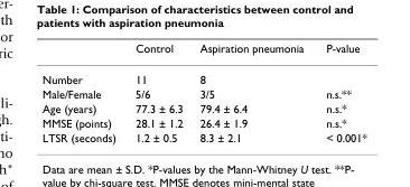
<table><thead><tr><td></td><td>Control</td><td>Aspiration pneumonia</td><td>P-value</td></tr></thead><tbody><tr><td>Number</td><td>11</td><td>8</td><td></td></tr><tr><td>Male/Female</td><td>5/6</td><td>3/5</td><td>n.s.**</td></tr><tr><td>Age (years)</td><td>77.3 ± 6.3</td><td>79.4 ± 6.4</td><td>n.s.*</td></tr><tr><td>MMSE (points)</td><td>28.1 ± 1.2</td><td>26.4 ± 1.9</td><td>n.s.*</td></tr><tr><td>LTSR (seconds)</td><td>1.2 ± 0.5</td><td>8.3 ± 2.1</td><td>&lt; 0.001*</td></tr></tbody></table>